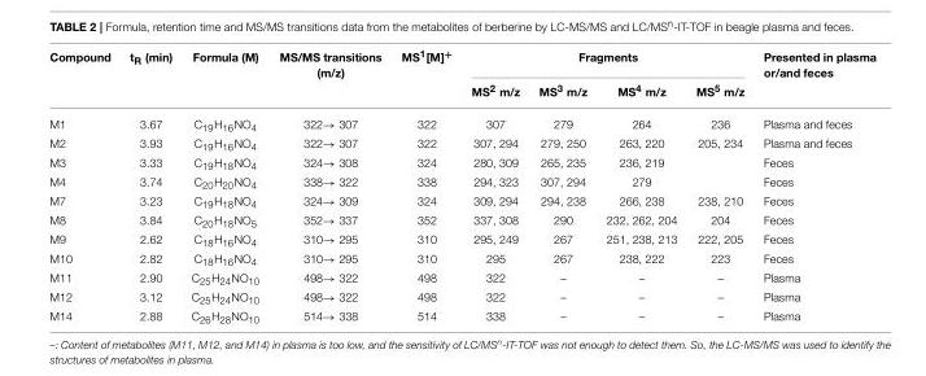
<table><thead><tr><td rowspan="2">Compound</td><td rowspan="2">t<sub>R</sub> (min)</td><td rowspan="2">Formula (M)</td><td rowspan="2">MS/MS transitions (m/z)</td><td rowspan="2">MS<sup>1</sup>[M]<sup>+</sup></td><td colspan="4">Fragments</td><td rowspan="2">Presented in plasma or/and feces</td></tr><tr><td>MS<sup>2</sup> m/z</td><td>MS<sup>3</sup> m/z</td><td>MS<sup>4</sup> m/z</td><td>MS<sup>5</sup> m/z</td></tr></thead><tbody><tr><td>M1</td><td>3.67</td><td>C<sub>19</sub>H<sub>16</sub>NO<sub>4</sub></td><td>322→ 307</td><td>322</td><td>307</td><td>279</td><td>264</td><td>236</td><td>Plasma and feces</td></tr><tr><td>M2</td><td>3.93</td><td>C<sub>19</sub>H<sub>16</sub>NO<sub>4</sub></td><td>322→ 307</td><td>322</td><td>307, 294</td><td>279, 250</td><td>263, 220</td><td>205, 234</td><td>Plasma and feces</td></tr><tr><td>M3</td><td>3.33</td><td>C<sub>19</sub>H<sub>18</sub>NO<sub>4</sub></td><td>324→ 308</td><td>324</td><td>280, 309</td><td>265, 235</td><td>236, 219</td><td></td><td>Feces</td></tr><tr><td>M4</td><td>3.74</td><td>C<sub>20</sub>H<sub>20</sub>NO<sub>4</sub></td><td>338→ 322</td><td>338</td><td>294, 323</td><td>307, 294</td><td>279</td><td></td><td>Feces</td></tr><tr><td>M7</td><td>3.23</td><td>C<sub>19</sub>H<sub>18</sub>NO<sub>4</sub></td><td>324→ 309</td><td>324</td><td>309, 294</td><td>294, 238</td><td>266, 238</td><td>238, 210</td><td>Feces</td></tr><tr><td>M8</td><td>3.84</td><td>C<sub>20</sub>H<sub>18</sub>NO<sub>5</sub></td><td>352→ 337</td><td>352</td><td>337, 308</td><td>290</td><td>232, 262, 204</td><td>204</td><td>Feces</td></tr><tr><td>M9</td><td>2.62</td><td>C<sub>18</sub>H<sub>16</sub>NO<sub>4</sub></td><td>310→ 295</td><td>310</td><td>295, 249</td><td>267</td><td>251, 238, 213</td><td>222, 205</td><td>Feces</td></tr><tr><td>M10</td><td>2.82</td><td>C<sub>18</sub>H<sub>16</sub>NO<sub>4</sub></td><td>310→ 295</td><td>310</td><td>295</td><td>267</td><td>238, 222</td><td>223</td><td>Feces</td></tr><tr><td>M11</td><td>2.90</td><td>C<sub>25</sub>H<sub>24</sub>NO<sub>10</sub></td><td>498→ 322</td><td>498</td><td>322</td><td>–</td><td>–</td><td>–</td><td>Plasma</td></tr><tr><td>M12</td><td>3.12</td><td>C<sub>25</sub>H<sub>24</sub>NO<sub>10</sub></td><td>498→ 322</td><td>498</td><td>322</td><td>–</td><td>–</td><td>–</td><td>Plasma</td></tr><tr><td>M14</td><td>2.88</td><td>C<sub>26</sub>H<sub>28</sub>NO<sub>10</sub></td><td>514→ 338</td><td>514</td><td>338</td><td>–</td><td>–</td><td>–</td><td>Plasma</td></tr></tbody></table>